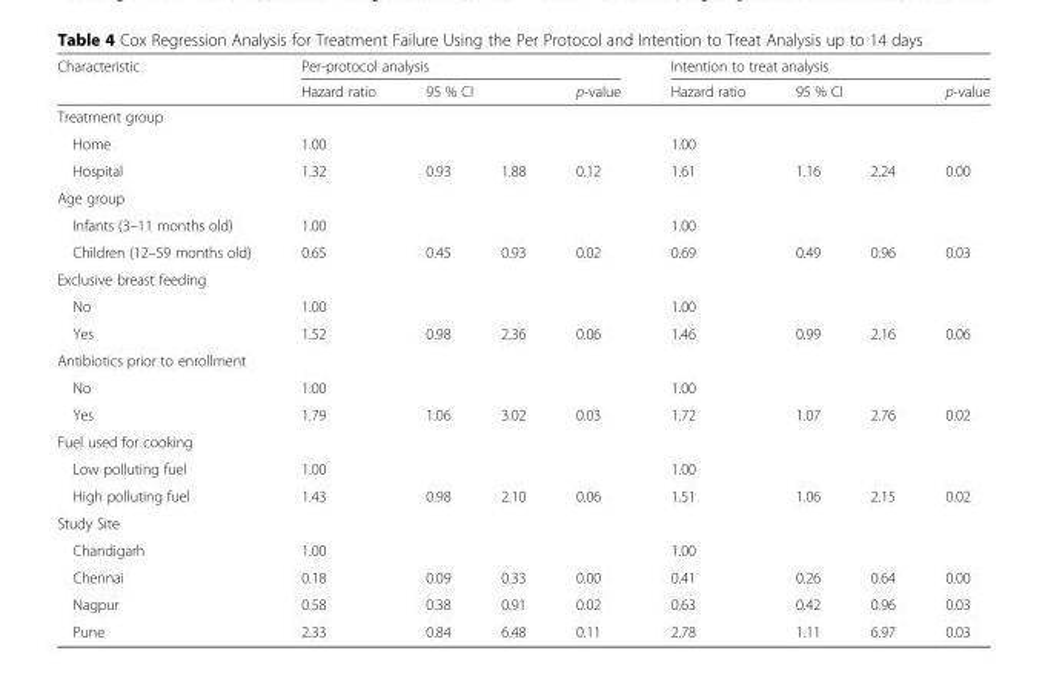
<table><thead><tr><td rowspan="3">Characteristic Treatment group</td><td colspan="4">Per-protocol analysis</td><td colspan="4">Intention to treat analysis</td></tr><tr><td rowspan="2">Hazard ratio</td><td colspan="2">95 % CI</td><td rowspan="2">p-value</td><td rowspan="2">Hazard ratio</td><td colspan="2">95 % CI</td><td rowspan="2">p-value</td></tr><tr><td></td><td></td><td></td><td></td></tr></thead><tbody><tr><td>Home</td><td>1.00</td><td></td><td></td><td></td><td>1.00</td><td></td><td></td><td></td></tr><tr><td>Hospital</td><td>1.32</td><td>0.93</td><td>1.88</td><td>0.12</td><td>1.61</td><td>1.16</td><td>2.24</td><td>0.00</td></tr><tr><td colspan="9">Age group</td></tr><tr><td>Infants (3–11 months old)</td><td>1.00</td><td></td><td></td><td></td><td>1.00</td><td></td><td></td><td></td></tr><tr><td>Children (12–59 months old)</td><td>0.65</td><td>0.45</td><td>0.93</td><td>0.02</td><td>0.69</td><td>0.49</td><td>0.96</td><td>0.03</td></tr><tr><td colspan="9">Exclusive breast feeding</td></tr><tr><td>No</td><td>1.00</td><td></td><td></td><td></td><td>1.00</td><td></td><td></td><td></td></tr><tr><td>Yes</td><td>1.52</td><td>0.98</td><td>2.36</td><td>0.06</td><td>1.46</td><td>0.99</td><td>2.16</td><td>0.06</td></tr><tr><td colspan="9">Antibiotics prior to enrollment</td></tr><tr><td>No</td><td>1.00</td><td></td><td></td><td></td><td>1.00</td><td></td><td></td><td></td></tr><tr><td>Yes</td><td>1.79</td><td>1.06</td><td>3.02</td><td>0.03</td><td>1.72</td><td>1.07</td><td>2.76</td><td>0.02</td></tr><tr><td colspan="9">Fuel used for cooking</td></tr><tr><td>Low polluting fuel</td><td>1.00</td><td></td><td></td><td></td><td>1.00</td><td></td><td></td><td></td></tr><tr><td>High polluting fuel</td><td>1.43</td><td>0.98</td><td>2.10</td><td>0.06</td><td>1.51</td><td>1.06</td><td>2.15</td><td>0.02</td></tr><tr><td colspan="9">Study Site</td></tr><tr><td>Chandigarh</td><td>1.00</td><td></td><td></td><td></td><td>1.00</td><td></td><td></td><td></td></tr><tr><td>Chennai</td><td>0.18</td><td>0.09</td><td>0.33</td><td>0.00</td><td>0.41</td><td>0.26</td><td>0.64</td><td>0.00</td></tr><tr><td>Nagpur</td><td>0.58</td><td>0.38</td><td>0.91</td><td>0.02</td><td>0.63</td><td>0.42</td><td>0.96</td><td>0.03</td></tr><tr><td>Pune</td><td>2.33</td><td>0.84</td><td>6.48</td><td>0.11</td><td>2.78</td><td>1.11</td><td>6.97</td><td>0.03</td></tr></tbody></table>